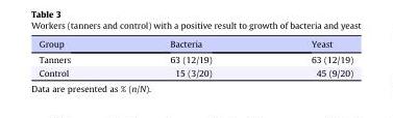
<table><thead><tr><td>Group</td><td>Bacteria</td><td>Yeast</td></tr></thead><tbody><tr><td>Tanners</td><td>63 (12/19)</td><td>63 (12/19)</td></tr><tr><td>Control</td><td>15 (3/20)</td><td>45 (9/20)</td></tr></tbody></table>